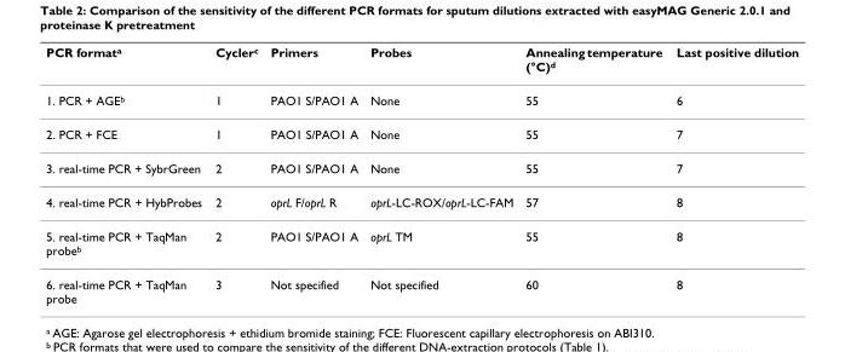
<table><thead><tr><td>PCR format<sup>a</sup></td><td>Cycler<sup>c</sup></td><td>Primers</td><td>Probes</td><td>Annealing temperature (°C)<sup>d</sup></td><td>Last positive dilution</td></tr></thead><tbody><tr><td>1. PCR + AGE<sup>b</sup></td><td>1</td><td>PAO1 S/PAO1 A</td><td>None</td><td>55</td><td>6</td></tr><tr><td>2. PCR + FCE</td><td>1</td><td>PAO1 S/PAO1 A</td><td>None</td><td>55</td><td>7</td></tr><tr><td>3. real-time PCR + SybrGreen</td><td>2</td><td>PAO1 S/PAO1 A</td><td>None</td><td>55</td><td>7</td></tr><tr><td>4. real-time PCR + HybProbes</td><td>2</td><td>oprL F/oprL R</td><td>oprL-LC-ROX/oprL-LC-FAM</td><td>57</td><td>8</td></tr><tr><td>5. real-time PCR + TaqMan probe<sup>b</sup></td><td>2</td><td>PAO1 S/PAO1 A</td><td>oprL TM</td><td>55</td><td>8</td></tr><tr><td>6. real-time PCR + TaqMan probe</td><td>3</td><td>Not specified</td><td>Not specified</td><td>60</td><td>8</td></tr></tbody></table>